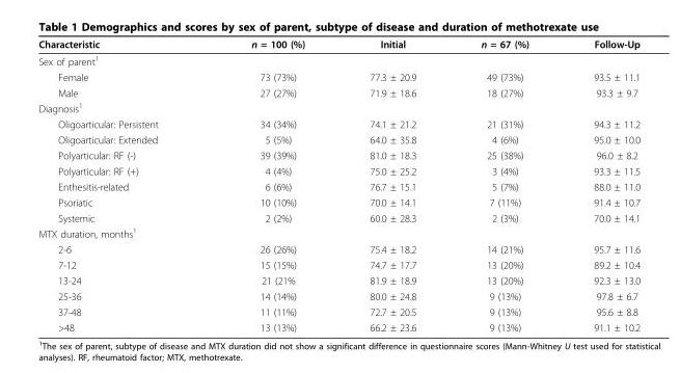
<table><thead><tr><td>Characteristic</td><td>n = 100 (%)</td><td>Initial</td><td>n = 67 (%)</td><td>Follow-Up</td></tr></thead><tbody><tr><td colspan="5">Sex of parent<sup>1</sup></td></tr><tr><td>Female</td><td>73 (73%)</td><td>77.3 ± 20.9</td><td>49 (73%)</td><td>93.5 ± 11.1</td></tr><tr><td>Male</td><td>27 (27%)</td><td>71.9 ± 18.6</td><td>18 (27%)</td><td>93.3 ± 9.7</td></tr><tr><td colspan="5">Diagnosis<sup>1</sup></td></tr><tr><td>Oligoarticular: Persistent</td><td>34 (34%)</td><td>74.1 ± 21.2</td><td>21 (31%)</td><td>94.3 ± 11.2</td></tr><tr><td>Oligoarticular: Extended</td><td>5 (5%)</td><td>64.0 ± 35.8</td><td>4 (6%)</td><td>95.0 ± 10.0</td></tr><tr><td>Polyarticular: RF (-)</td><td>39 (39%)</td><td>81.0 ± 18.3</td><td>25 (38%)</td><td>96.0 ± 8.2</td></tr><tr><td>Polyarticular: RF (+)</td><td>4 (4%)</td><td>75.0 ± 25.2</td><td>3 (4%)</td><td>93.3 ± 11.5</td></tr><tr><td>Enthesitis-related</td><td>6 (6%)</td><td>76.7 ± 15.1</td><td>5 (7%)</td><td>88.0 ± 11.0</td></tr><tr><td>Psoriatic</td><td>10 (10%)</td><td>70.0 ± 14.1</td><td>7 (11%)</td><td>91.4 ± 10.7</td></tr><tr><td>Systemic</td><td>2 (2%)</td><td>60.0 ± 28.3</td><td>2 (3%)</td><td>70.0 ± 14.1</td></tr><tr><td colspan="5">MTX duration, months<sup>1</sup></td></tr><tr><td>2-6</td><td>26 (26%)</td><td>75.4 ± 18.2</td><td>14 (21%)</td><td>95.7 ± 11.6</td></tr><tr><td>7-12</td><td>15 (15%)</td><td>74.7 ± 17.7</td><td>13 (20%)</td><td>89.2 ± 10.4</td></tr><tr><td>13-24</td><td>21 (21%</td><td>81.9 ± 18.9</td><td>13 (20%)</td><td>92.3 ± 13.0</td></tr><tr><td>25-36</td><td>14 (14%)</td><td>80.0 ± 24.8</td><td>9 (13%)</td><td>97.8 ± 6.7</td></tr><tr><td>37-48</td><td>11 (11%)</td><td>72.7 ± 20.5</td><td>9 (13%)</td><td>95.6 ± 8.8</td></tr><tr><td>&gt;48</td><td>13 (13%)</td><td>66.2 ± 23.6</td><td>9 (13%)</td><td>91.1 ± 10.2</td></tr></tbody></table>